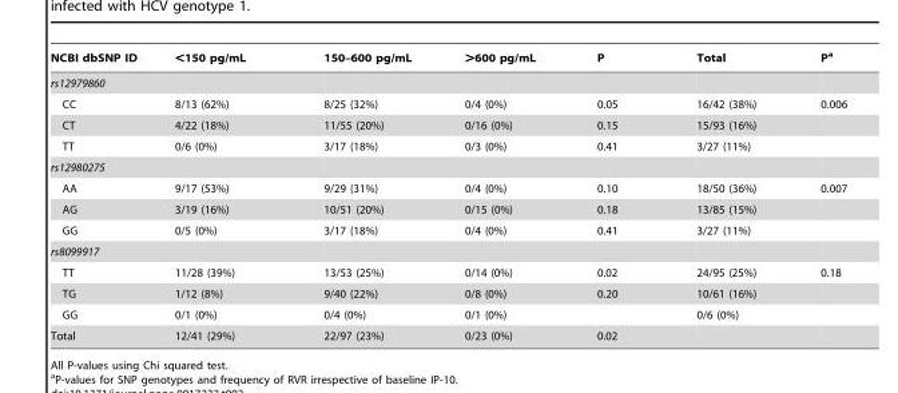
<table><thead><tr><td>NCBI dbSNP ID</td><td>&lt;150 pg/mL</td><td>150–600 pg/mL</td><td>&gt;600 pg/mL</td><td>P</td><td>Total</td><td>P<sup>a</sup></td></tr></thead><tbody><tr><td colspan="7">rs12979860</td></tr><tr><td>CC</td><td>8/13 (62%)</td><td>8/25 (32%)</td><td>0/4 (0%)</td><td>0.05</td><td>16/42 (38%)</td><td>0.006</td></tr><tr><td>CT</td><td>4/22 (18%)</td><td>11/55 (20%)</td><td>0/16 (0%)</td><td>0.15</td><td>15/93 (16%)</td><td></td></tr><tr><td>TT</td><td>0/6 (0%)</td><td>3/17 (18%)</td><td>0/3 (0%)</td><td>0.41</td><td>3/27 (11%)</td><td></td></tr><tr><td colspan="7">rs12980275</td></tr><tr><td>AA</td><td>9/17 (53%)</td><td>9/29 (31%)</td><td>0/4 (0%)</td><td>0.10</td><td>18/50 (36%)</td><td>0.007</td></tr><tr><td>AG</td><td>3/19 (16%)</td><td>10/51 (20%)</td><td>0/15 (0%)</td><td>0.18</td><td>13/85 (15%)</td><td></td></tr><tr><td>GG</td><td>0/5 (0%)</td><td>3/17 (18%)</td><td>0/4 (0%)</td><td>0.41</td><td>3/27 (11%)</td><td></td></tr><tr><td colspan="7">rs8099917</td></tr><tr><td>TT</td><td>11/28 (39%)</td><td>13/53 (25%)</td><td>0/14 (0%)</td><td>0.02</td><td>24/95 (25%)</td><td>0.18</td></tr><tr><td>TG</td><td>1/12 (8%)</td><td>9/40 (22%)</td><td>0/8 (0%)</td><td>0.20</td><td>10/61 (16%)</td><td></td></tr><tr><td>GG</td><td>0/1 (0%)</td><td>0/4 (0%)</td><td>0/1 (0%)</td><td></td><td>0/6 (0%)</td><td></td></tr><tr><td>Total</td><td>12/41 (29%)</td><td>22/97 (23%)</td><td>0/23 (0%)</td><td>0.02</td><td></td><td></td></tr></tbody></table>